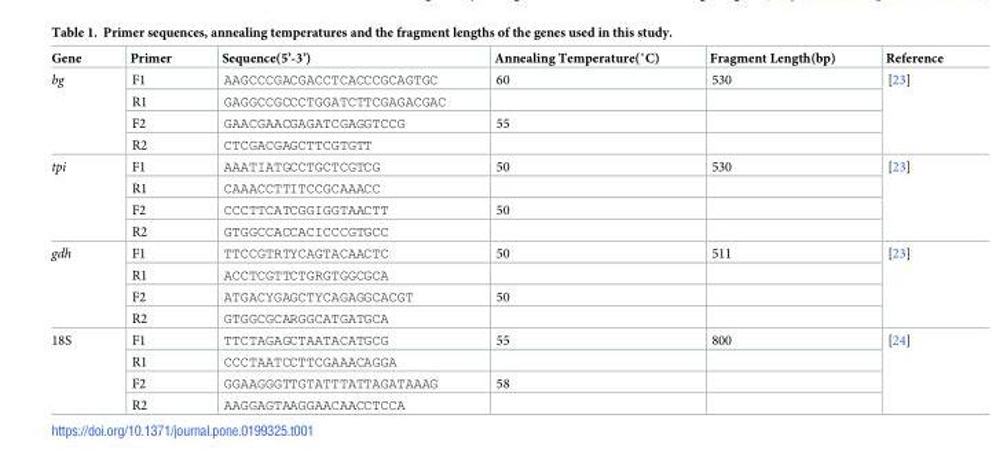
<table><thead><tr><td>Gene</td><td>Primer</td><td>Sequence(5’-3’)</td><td>Annealing Temperature(˚C)</td><td>Fragment Length(bp)</td><td>Reference</td></tr></thead><tbody><tr><td rowspan="4">bg</td><td>F1</td><td>AAGCCCGACGACCTCACCCGCAGTGC</td><td>60</td><td>530</td><td rowspan="4">[23]</td></tr><tr><td>R1</td><td>GAGGCCGCCCTGGATCTTCGAGACGAC</td><td></td><td></td></tr><tr><td>F2</td><td>GAACGAACGAGATCGAGGTCCG</td><td>55</td><td></td></tr><tr><td>R2</td><td>CTCGACGAGCTTCGTGTT</td><td></td><td></td></tr><tr><td rowspan="4">tpi</td><td>F1</td><td>AAATIATGCCTGCTCGTCG</td><td>50</td><td>530</td><td rowspan="4">[23]</td></tr><tr><td>R1</td><td>CAAACCTTITCCGCAAACC</td><td></td><td></td></tr><tr><td>F2</td><td>CCCTTCATCGGIGGTAACTT</td><td>50</td><td></td></tr><tr><td>R2</td><td>GTGGCCACCACICCCGTGCC</td><td></td><td></td></tr><tr><td rowspan="4">gdh</td><td>F1</td><td>TTCCGTRTYCAGTACAACTC</td><td>50</td><td>511</td><td rowspan="4">[23]</td></tr><tr><td>R1</td><td>ACCTCGTTCTGRGTGGCGCA</td><td></td><td></td></tr><tr><td>F2</td><td>ATGACYGAGCTYCAGAGGCACGT</td><td>50</td><td></td></tr><tr><td>R2</td><td>GTGGCGCARGGCATGATGCA</td><td></td><td></td></tr><tr><td rowspan="4">18S</td><td>F1</td><td>TTCTAGAGCTAATACATGCG</td><td>55</td><td>800</td><td rowspan="4">[24]</td></tr><tr><td>R1</td><td>CCCTAATCCTTCGAAACAGGA</td><td></td><td></td></tr><tr><td>F2</td><td>GGAAGGGTTGTATTTATTAGATAAAG</td><td>58</td><td></td></tr><tr><td>R2</td><td>AAGGAGTAAGGAACAACCTCCA</td><td></td><td></td></tr></tbody></table>